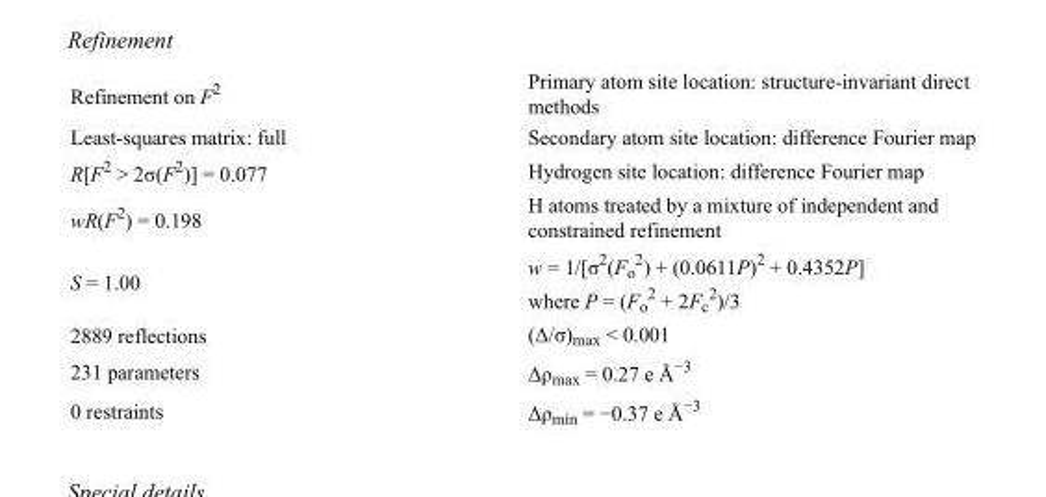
<table><tbody><tr><td>Refinement on F<sup>2</sup></td><td>Primary atom site location: structure-invariant direct methods</td></tr><tr><td>Least-squares matrix: full</td><td>Secondary atom site location: difference Fourier map</td></tr><tr><td>R[F<sup>2</sup> &gt; 2σ(F<sup>2</sup>)] = 0.077</td><td>Hydrogen site location: difference Fourier map</td></tr><tr><td>wR(F<sup>2</sup>) = 0.198</td><td>H atoms treated by a mixture of independent and constrained refinement</td></tr><tr><td>S = 1.00</td><td>w = 1/[σ<sup>2</sup>(F<sub>o</sub> <sup>2</sup>) + (0.0611P)<sup>2</sup> + 0.4352P] where P = (F<sub>o</sub> <sup>2</sup> + 2F<sub>c</sub> <sup>2</sup>)/3</td></tr><tr><td>2889 reflections</td><td>(Δ/σ)<sub>max</sub> &lt; 0.001</td></tr><tr><td>231 parameters</td><td>Δρ<sub>max</sub> = 0.27 e Å<sup>−3</sup></td></tr><tr><td>0 restraints</td><td>Δρ<sub>min</sub> = −0.37 e Å<sup>−3</sup></td></tr></tbody></table>